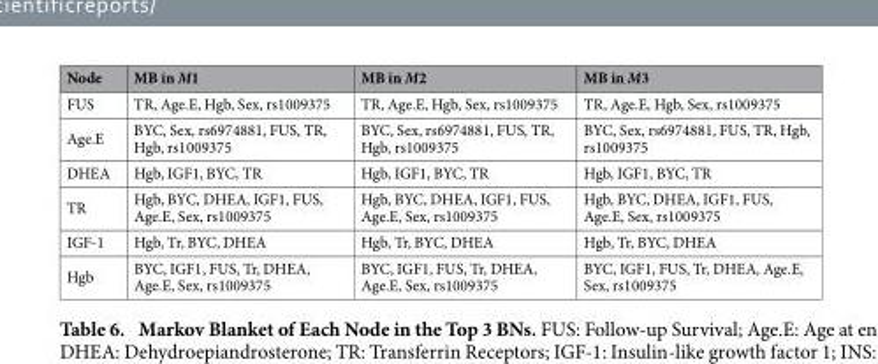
<table><thead><tr><td>Node</td><td>MB in M1</td><td>MB in M2</td><td>MB in M3</td></tr></thead><tbody><tr><td>FUS</td><td>TR, Age.E, Hgb, Sex, rs1009375</td><td>TR, Age.E, Hgb, Sex, rs1009375</td><td>TR, Age.E, Hgb, Sex, rs1009375</td></tr><tr><td>Age.E</td><td>BYC, Sex, rs6974881, FUS, TR, Hgb, rs1009375</td><td>BYC, Sex, rs6974881, FUS, TR, Hgb, rs1009375</td><td>BYC, Sex, rs6974881, FUS, TR, Hgb, rs1009375</td></tr><tr><td>DHEA</td><td>Hgb, IGF1, BYC, TR</td><td>Hgb, IGF1, BYC, TR</td><td>Hgb, IGF1, BYC, TR</td></tr><tr><td>TR</td><td>Hgb, BYC, DHEA, IGF1, FUS, Age.E, Sex, rs1009375</td><td>Hgb, BYC, DHEA, IGF1, FUS, Age.E, Sex, rs1009375</td><td>Hgb, BYC, DHEA, IGF1, FUS, Age.E, Sex, rs1009375</td></tr><tr><td>IGF-1</td><td>Hgb, Tr, BYC, DHEA</td><td>Hgb, Tr, BYC, DHEA</td><td>Hgb, Tr, BYC, DHEA</td></tr><tr><td>Hgb</td><td>BYC, IGF1, FUS, Tr, DHEA, Age.E, Sex, rs1009375</td><td>BYC, IGF1, FUS, Tr, DHEA, Age.E, Sex, rs1009375</td><td>BYC, IGF1, FUS, Tr, DHEA, Age.E, Sex, rs1009375</td></tr></tbody></table>